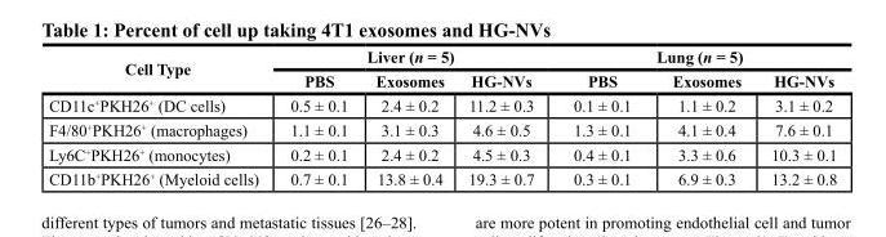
<table><thead><tr><td rowspan="2">Cell Type</td><td colspan="3">Liver (n = 5)</td><td colspan="3">Lung (n = 5)</td></tr><tr><td>PBS</td><td>Exosomes</td><td>HG-NVs</td><td>PBS</td><td>Exosomes</td><td>HG-NVs</td></tr></thead><tbody><tr><td>CD11c<sup>+</sup>PKH26<sup>+</sup> (DC cells)</td><td>0.5 ± 0.1</td><td>2.4 ± 0.2</td><td>11.2 ± 0.3</td><td>0.1 ± 0.1</td><td>1.1 ± 0.2</td><td>3.1 ± 0.2</td></tr><tr><td>F4/80<sup>+</sup>PKH26<sup>+</sup> (macrophages)</td><td>1.1 ± 0.1</td><td>3.1 ± 0.3</td><td>4.6 ± 0.5</td><td>1.3 ± 0.1</td><td>4.1 ± 0.4</td><td>7.6 ± 0.1</td></tr><tr><td>Ly6C<sup>+</sup>PKH26<sup>+</sup> (monocytes)</td><td>0.2 ± 0.1</td><td>2.4 ± 0.2</td><td>4.5 ± 0.3</td><td>0.4 ± 0.1</td><td>3.3 ± 0.6</td><td>10.3 ± 0.1</td></tr><tr><td>CD11b<sup>+</sup>PKH26<sup>+</sup> (Myeloid cells)</td><td>0.7 ± 0.1</td><td>13.8 ± 0.4</td><td>19.3 ± 0.7</td><td>0.3 ± 0.1</td><td>6.9 ± 0.3</td><td>13.2 ± 0.8</td></tr></tbody></table>